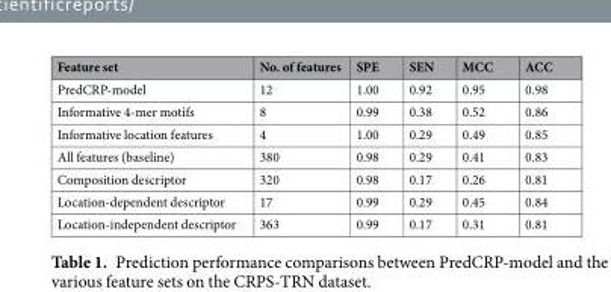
<table><thead><tr><td>Feature set</td><td>No. of features</td><td>SPE</td><td>SEN</td><td>MCC</td><td>ACC</td></tr></thead><tbody><tr><td>PredCRP-model</td><td>12</td><td>1.00</td><td>0.92</td><td>0.95</td><td>0.98</td></tr><tr><td>Informative 4-mer motifs</td><td>8</td><td>0.99</td><td>0.38</td><td>0.52</td><td>0.86</td></tr><tr><td>Informative location features</td><td>4</td><td>1.00</td><td>0.29</td><td>0.49</td><td>0.85</td></tr><tr><td>All features (baseline)</td><td>380</td><td>0.98</td><td>0.29</td><td>0.41</td><td>0.83</td></tr><tr><td>Composition descriptor</td><td>320</td><td>0.98</td><td>0.17</td><td>0.26</td><td>0.81</td></tr><tr><td>Location-dependent descriptor</td><td>17</td><td>0.99</td><td>0.29</td><td>0.45</td><td>0.84</td></tr><tr><td>Location-independent descriptor</td><td>363</td><td>0.99</td><td>0.17</td><td>0.31</td><td>0.81</td></tr></tbody></table>